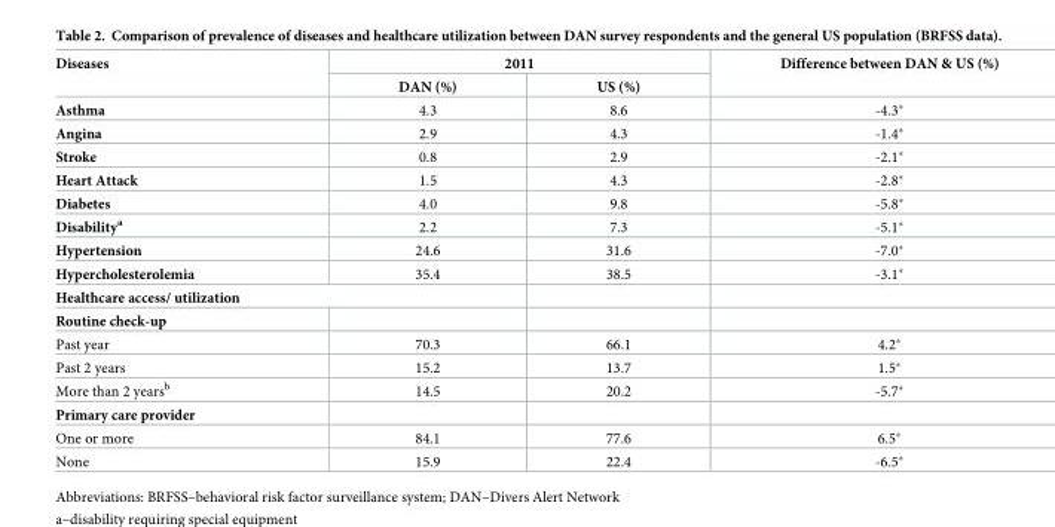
<table><thead><tr><td rowspan="2">Diseases</td><td colspan="2">2011</td><td rowspan="2">Difference between DAN &amp; US (%)</td></tr><tr><td>DAN (%)</td><td>US (%)</td></tr></thead><tbody><tr><td>Asthma</td><td>4.3</td><td>8.6</td><td>-4.3*</td></tr><tr><td>Angina</td><td>2.9</td><td>4.3</td><td>-1.4*</td></tr><tr><td>Stroke</td><td>0.8</td><td>2.9</td><td>-2.1*</td></tr><tr><td>Heart Attack</td><td>1.5</td><td>4.3</td><td>-2.8*</td></tr><tr><td>Diabetes</td><td>4.0</td><td>9.8</td><td>-5.8*</td></tr><tr><td>Disability<sup>a</sup></td><td>2.2</td><td>7.3</td><td>-5.1*</td></tr><tr><td>Hypertension</td><td>24.6</td><td>31.6</td><td>-7.0*</td></tr><tr><td>Hypercholesterolemia</td><td>35.4</td><td>38.5</td><td>-3.1*</td></tr><tr><td colspan="4">Healthcare access/ utilization</td></tr><tr><td colspan="4">Routine check-up</td></tr><tr><td>Past year</td><td>70.3</td><td>66.1</td><td>4.2*</td></tr><tr><td>Past 2 years</td><td>15.2</td><td>13.7</td><td>1.5*</td></tr><tr><td>More than 2 years<sup>b</sup></td><td>14.5</td><td>20.2</td><td>-5.7*</td></tr><tr><td colspan="4">Primary care provider</td></tr><tr><td>One or more</td><td>84.1</td><td>77.6</td><td>6.5*</td></tr><tr><td>None</td><td>15.9</td><td>22.4</td><td>-6.5*</td></tr></tbody></table>